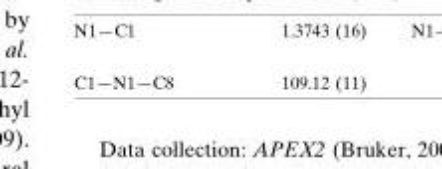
<table><tbody><tr><td>C1—N1—C8</td><td>109.12 (11)</td></tr></tbody></table>